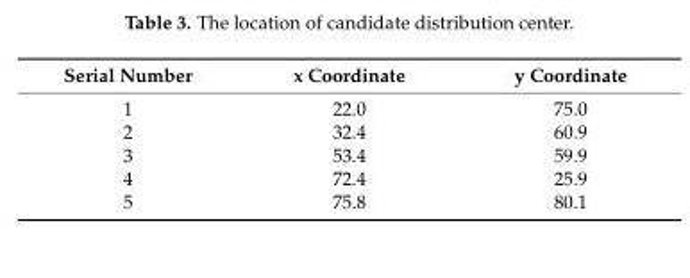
<table><thead><tr><td>Serial Number</td><td>x Coordinate</td><td>y Coordinate</td></tr></thead><tbody><tr><td>1</td><td>22.0</td><td>75.0</td></tr><tr><td>2</td><td>32.4</td><td>60.9</td></tr><tr><td>3</td><td>53.4</td><td>59.9</td></tr><tr><td>4</td><td>72.4</td><td>25.9</td></tr><tr><td>5</td><td>75.8</td><td>80.1</td></tr></tbody></table>